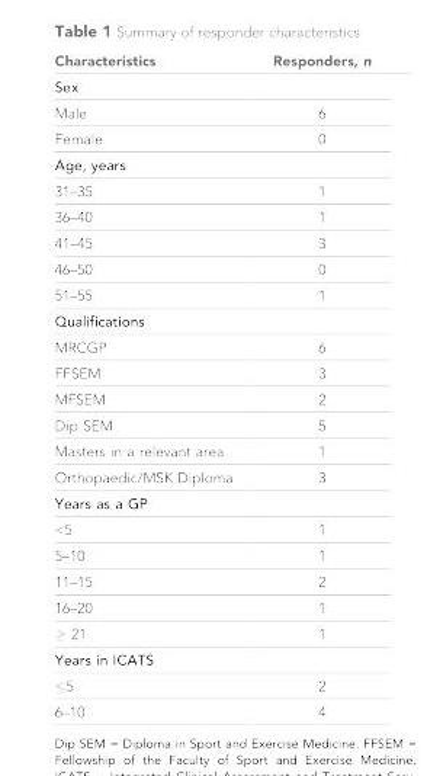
<table><thead><tr><td>Characteristics</td><td>Responders, n</td></tr></thead><tbody><tr><td colspan="2">Sex</td></tr><tr><td>Male</td><td>6</td></tr><tr><td>Female</td><td>0</td></tr><tr><td colspan="2">Age, years</td></tr><tr><td>31–35</td><td>1</td></tr><tr><td>36–40</td><td>1</td></tr><tr><td>41–45</td><td>3</td></tr><tr><td>46–50</td><td>0</td></tr><tr><td>51–55</td><td>1</td></tr><tr><td colspan="2">Qualifications</td></tr><tr><td>MRCGP</td><td>6</td></tr><tr><td>FFSEM</td><td>3</td></tr><tr><td>MFSEM</td><td>2</td></tr><tr><td>Dip SEM</td><td>5</td></tr><tr><td>Masters in a relevant area</td><td>1</td></tr><tr><td>Orthopaedic/MSK Diploma</td><td>3</td></tr><tr><td colspan="2">Years as a GP</td></tr><tr><td>&lt;5</td><td>1</td></tr><tr><td>5–10</td><td>1</td></tr><tr><td>11–15</td><td>2</td></tr><tr><td>16–20</td><td>1</td></tr><tr><td>≥ 21</td><td>1</td></tr><tr><td colspan="2">Years in ICATS</td></tr><tr><td>≤5</td><td>2</td></tr><tr><td>6–10</td><td>4</td></tr></tbody></table>